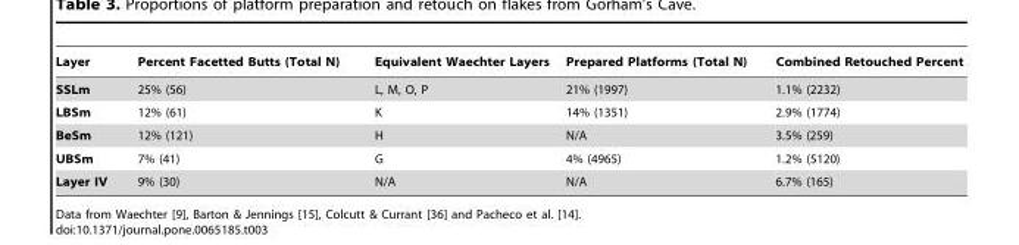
<table><thead><tr><td>Layer</td><td>Percent Facetted Butts (Total N)</td><td>Equivalent Waechter Layers</td><td>Prepared Platforms (Total N)</td><td>Combined Retouched Percent</td></tr></thead><tbody><tr><td>SSLm</td><td>25% (56)</td><td>L, M, O, P</td><td>21% (1997)</td><td>1.1% (2232)</td></tr><tr><td>LBSm</td><td>12% (61)</td><td>K</td><td>14% (1351)</td><td>2.9% (1774)</td></tr><tr><td>BeSm</td><td>12% (121)</td><td>H</td><td>N/A</td><td>3.5% (259)</td></tr><tr><td>UBSm</td><td>7% (41)</td><td>G</td><td>4% (4965)</td><td>1.2% (5120)</td></tr><tr><td>Layer IV</td><td>9% (30)</td><td>N/A</td><td>N/A</td><td>6.7% (165)</td></tr></tbody></table>